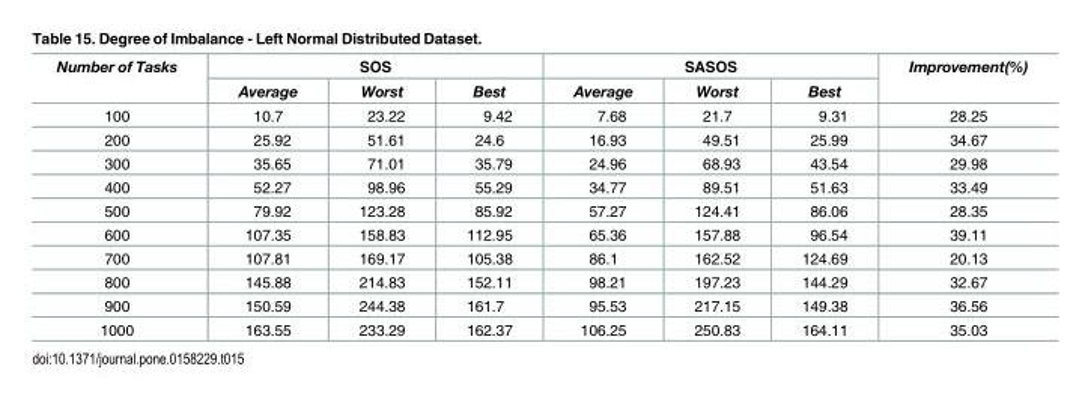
<table><thead><tr><td rowspan="2">Number of Tasks</td><td colspan="3">SOS</td><td colspan="3">SASOS</td><td rowspan="2">Improvement(%)</td></tr><tr><td>Average</td><td>Worst</td><td>Best</td><td>Average</td><td>Worst</td><td>Best</td></tr></thead><tbody><tr><td>100</td><td>10.7</td><td>23.22</td><td>9.42</td><td>7.68</td><td>21.7</td><td>9.31</td><td>28.25</td></tr><tr><td>200</td><td>25.92</td><td>51.61</td><td>24.6</td><td>16.93</td><td>49.51</td><td>25.99</td><td>34.67</td></tr><tr><td>300</td><td>35.65</td><td>71.01</td><td>35.79</td><td>24.96</td><td>68.93</td><td>43.54</td><td>29.98</td></tr><tr><td>400</td><td>52.27</td><td>98.96</td><td>55.29</td><td>34.77</td><td>89.51</td><td>51.63</td><td>33.49</td></tr><tr><td>500</td><td>79.92</td><td>123.28</td><td>85.92</td><td>57.27</td><td>124.41</td><td>86.06</td><td>28.35</td></tr><tr><td>600</td><td>107.35</td><td>158.83</td><td>112.95</td><td>65.36</td><td>157.88</td><td>96.54</td><td>39.11</td></tr><tr><td>700</td><td>107.81</td><td>169.17</td><td>105.38</td><td>86.1</td><td>162.52</td><td>124.69</td><td>20.13</td></tr><tr><td>800</td><td>145.88</td><td>214.83</td><td>152.11</td><td>98.21</td><td>197.23</td><td>144.29</td><td>32.67</td></tr><tr><td>900</td><td>150.59</td><td>244.38</td><td>161.7</td><td>95.53</td><td>217.15</td><td>149.38</td><td>36.56</td></tr><tr><td>1000</td><td>163.55</td><td>233.29</td><td>162.37</td><td>106.25</td><td>250.83</td><td>164.11</td><td>35.03</td></tr></tbody></table>